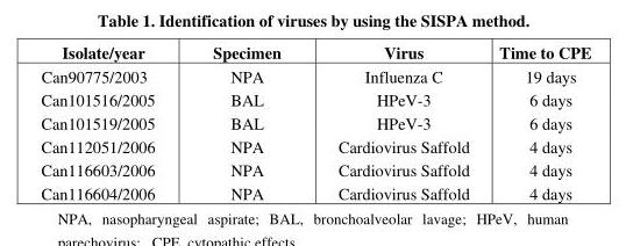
<table><thead><tr><td>Isolate/year</td><td>Specimen</td><td>Virus</td><td>Time to CPE</td></tr></thead><tbody><tr><td>Can90775/2003</td><td>NPA</td><td>Influenza C</td><td>19 days</td></tr><tr><td>Can101516/2005</td><td>BAL</td><td>HPeV-3</td><td>6 days</td></tr><tr><td>Can101519/2005</td><td>BAL</td><td>HPeV-3</td><td>6 days</td></tr><tr><td>Can112051/2006</td><td>NPA</td><td>Cardiovirus Saffold</td><td>4 days</td></tr><tr><td>Can116603/2006</td><td>NPA</td><td>Cardiovirus Saffold</td><td>4 days</td></tr><tr><td>Can116604/2006</td><td>NPA</td><td>Cardiovirus Saffold</td><td>4 days</td></tr></tbody></table>